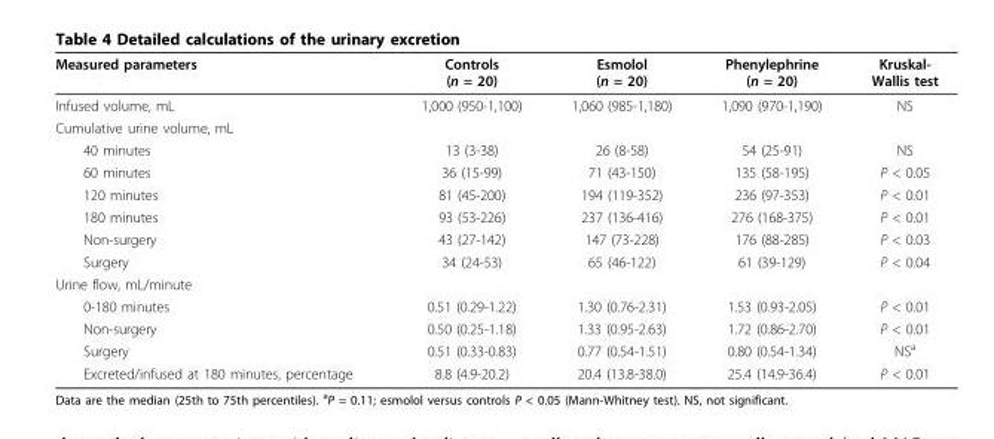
<table><thead><tr><td>Measured parameters</td><td>Controls (n = 20)</td><td>Esmolol (n = 20)</td><td>Phenylephrine (n = 20)</td><td>Kruskal- Wallis test</td></tr></thead><tbody><tr><td>Infused volume, mL</td><td>1,000 (950-1,100)</td><td>1,060 (985-1,180)</td><td>1,090 (970-1,190)</td><td>NS</td></tr><tr><td colspan="5">Cumulative urine volume, mL</td></tr><tr><td>40 minutes</td><td>13 (3-38)</td><td>26 (8-58)</td><td>54 (25-91)</td><td>NS</td></tr><tr><td>60 minutes</td><td>36 (15-99)</td><td>71 (43-150)</td><td>135 (58-195)</td><td>P &lt; 0.05</td></tr><tr><td>120 minutes</td><td>81 (45-200)</td><td>194 (119-352)</td><td>236 (97-353)</td><td>P &lt; 0.01</td></tr><tr><td>180 minutes</td><td>93 (53-226)</td><td>237 (136-416)</td><td>276 (168-375)</td><td>P &lt; 0.01</td></tr><tr><td>Non-surgery</td><td>43 (27-142)</td><td>147 (73-228)</td><td>176 (88-285)</td><td>P &lt; 0.03</td></tr><tr><td>Surgery</td><td>34 (24-53)</td><td>65 (46-122)</td><td>61 (39-129)</td><td>P &lt; 0.04</td></tr><tr><td colspan="5">Urine flow, mL/minute</td></tr><tr><td>0-180 minutes</td><td>0.51 (0.29-1.22)</td><td>1.30 (0.76-2.31)</td><td>1.53 (0.93-2.05)</td><td>P &lt; 0.01</td></tr><tr><td>Non-surgery</td><td>0.50 (0.25-1.18)</td><td>1.33 (0.95-2.63)</td><td>1.72 (0.86-2.70)</td><td>P &lt; 0.01</td></tr><tr><td>Surgery</td><td>0.51 (0.33-0.83)</td><td>0.77 (0.54-1.51)</td><td>0.80 (0.54-1.34)</td><td>NS<sup>a</sup></td></tr><tr><td>Excreted/infused at 180 minutes, percentage</td><td>8.8 (4.9-20.2)</td><td>20.4 (13.8-38.0)</td><td>25.4 (14.9-36.4)</td><td>P &lt; 0.01</td></tr></tbody></table>